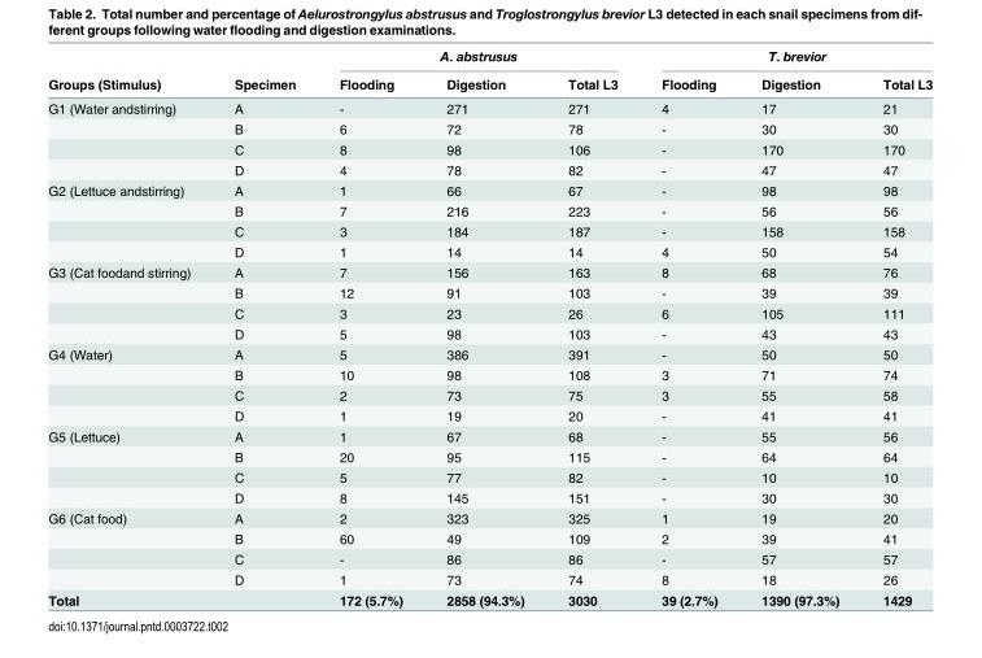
<table><thead><tr><td rowspan="2">Groups (Stimulus)</td><td rowspan="2">Specimen</td><td colspan="3">A. abstrusus</td><td colspan="3">T. brevior</td></tr><tr><td>Flooding</td><td>Digestion</td><td>Total L3</td><td>Flooding</td><td>Digestion</td><td>Total L3</td></tr></thead><tbody><tr><td rowspan="4">G1 (Water andstirring)</td><td>A</td><td>-</td><td>271</td><td>271</td><td>4</td><td>17</td><td>21</td></tr><tr><td>B</td><td>6</td><td>72</td><td>78</td><td>-</td><td>30</td><td>30</td></tr><tr><td>C</td><td>8</td><td>98</td><td>106</td><td>-</td><td>170</td><td>170</td></tr><tr><td>D</td><td>4</td><td>78</td><td>82</td><td>-</td><td>47</td><td>47</td></tr><tr><td rowspan="4">G2 (Lettuce andstirring)</td><td>A</td><td>1</td><td>66</td><td>67</td><td>-</td><td>98</td><td>98</td></tr><tr><td>B</td><td>7</td><td>216</td><td>223</td><td>-</td><td>56</td><td>56</td></tr><tr><td>C</td><td>3</td><td>184</td><td>187</td><td>-</td><td>158</td><td>158</td></tr><tr><td>D</td><td>1</td><td>14</td><td>14</td><td>4</td><td>50</td><td>54</td></tr><tr><td rowspan="4">G3 (Cat foodand stirring)</td><td>A</td><td>7</td><td>156</td><td>163</td><td>8</td><td>68</td><td>76</td></tr><tr><td>B</td><td>12</td><td>91</td><td>103</td><td>-</td><td>39</td><td>39</td></tr><tr><td>C</td><td>3</td><td>23</td><td>26</td><td>6</td><td>105</td><td>111</td></tr><tr><td>D</td><td>5</td><td>98</td><td>103</td><td>-</td><td>43</td><td>43</td></tr><tr><td rowspan="4">G4 (Water)</td><td>A</td><td>5</td><td>386</td><td>391</td><td>-</td><td>50</td><td>50</td></tr><tr><td>B</td><td>10</td><td>98</td><td>108</td><td>3</td><td>71</td><td>74</td></tr><tr><td>C</td><td>2</td><td>73</td><td>75</td><td>3</td><td>55</td><td>58</td></tr><tr><td>D</td><td>1</td><td>19</td><td>20</td><td>-</td><td>41</td><td>41</td></tr><tr><td rowspan="4">G5 (Lettuce)</td><td>A</td><td>1</td><td>67</td><td>68</td><td>-</td><td>55</td><td>56</td></tr><tr><td>B</td><td>20</td><td>95</td><td>115</td><td>-</td><td>64</td><td>64</td></tr><tr><td>C</td><td>5</td><td>77</td><td>82</td><td>-</td><td>10</td><td>10</td></tr><tr><td>D</td><td>8</td><td>145</td><td>151</td><td>-</td><td>30</td><td>30</td></tr><tr><td rowspan="4">G6 (Cat food)</td><td>A</td><td>2</td><td>323</td><td>325</td><td>1</td><td>19</td><td>20</td></tr><tr><td>B</td><td>60</td><td>49</td><td>109</td><td>2</td><td>39</td><td>41</td></tr><tr><td>C</td><td>-</td><td>86</td><td>86</td><td>-</td><td>57</td><td>57</td></tr><tr><td>D</td><td>1</td><td>73</td><td>74</td><td>8</td><td>18</td><td>26</td></tr><tr><td>Total</td><td></td><td>172 (5.7%)</td><td>2858 (94.3%)</td><td>3030</td><td>39 (2.7%)</td><td>1390 (97.3%)</td><td>1429</td></tr></tbody></table>